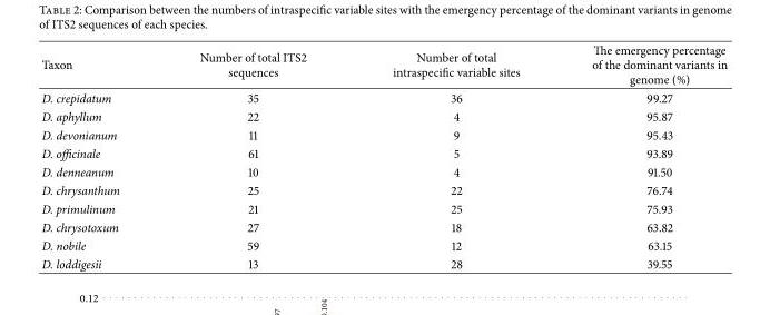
<table><thead><tr><td>Taxon</td><td>Number of total ITS2 sequences</td><td>Number of total intraspecific variable sites</td><td>The emergency percentage of the dominant variants in genome (%)</td></tr></thead><tbody><tr><td>D. crepidatum</td><td>35</td><td>36</td><td>99.27</td></tr><tr><td>D. aphyllum</td><td>22</td><td>4</td><td>95.87</td></tr><tr><td>D. devonianum</td><td>11</td><td>9</td><td>95.43</td></tr><tr><td>D. officinale</td><td>61</td><td>5</td><td>93.89</td></tr><tr><td>D. denneanum</td><td>10</td><td>4</td><td>91.50</td></tr><tr><td>D. chrysanthum</td><td>25</td><td>22</td><td>76.74</td></tr><tr><td>D. primulinum</td><td>21</td><td>25</td><td>75.93</td></tr><tr><td>D. chrysotoxum</td><td>27</td><td>18</td><td>63.82</td></tr><tr><td>D. nobile</td><td>59</td><td>12</td><td>63.15</td></tr><tr><td>D. loddigesii</td><td>13</td><td>28</td><td>39.55</td></tr></tbody></table>